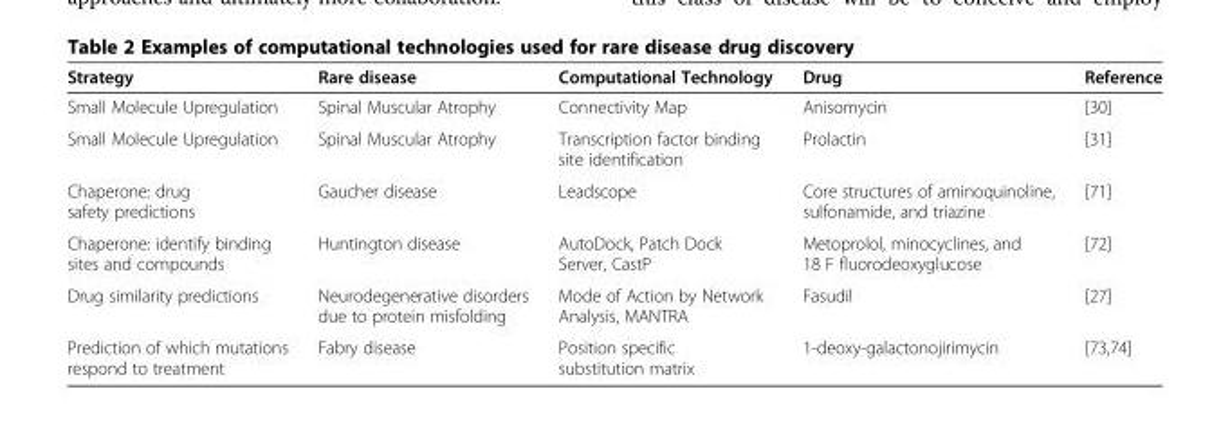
<table><thead><tr><td>Strategy</td><td>Rare disease</td><td>Computational Technology</td><td>Drug</td><td>Reference</td></tr></thead><tbody><tr><td>Small Molecule Upregulation</td><td>Spinal Muscular Atrophy</td><td>Connectivity Map</td><td>Anisomycin</td><td>[30]</td></tr><tr><td>Small Molecule Upregulation</td><td>Spinal Muscular Atrophy</td><td>Transcription factor binding site identification</td><td>Prolactin</td><td>[31]</td></tr><tr><td>Chaperone: drug safety predictions</td><td>Gaucher disease</td><td>Leadscope</td><td>Core structures of aminoquinoline, sulfonamide, and triazine</td><td>[71]</td></tr><tr><td>Chaperone: identify binding sites and compounds</td><td>Huntington disease</td><td>AutoDock, Patch Dock Server, CastP</td><td>Metoprolol, minocyclines, and 18 F fluorodeoxyglucose</td><td>[72]</td></tr><tr><td>Drug similarity predictions</td><td>Neurodegenerative disorders due to protein misfolding</td><td>Mode of Action by Network Analysis, MANTRA</td><td>Fasudil</td><td>[27]</td></tr><tr><td>Prediction of which mutations respond to treatment</td><td>Fabry disease</td><td>Position specific substitution matrix</td><td>1-deoxy-galactonojirimycin</td><td>[73,74]</td></tr></tbody></table>